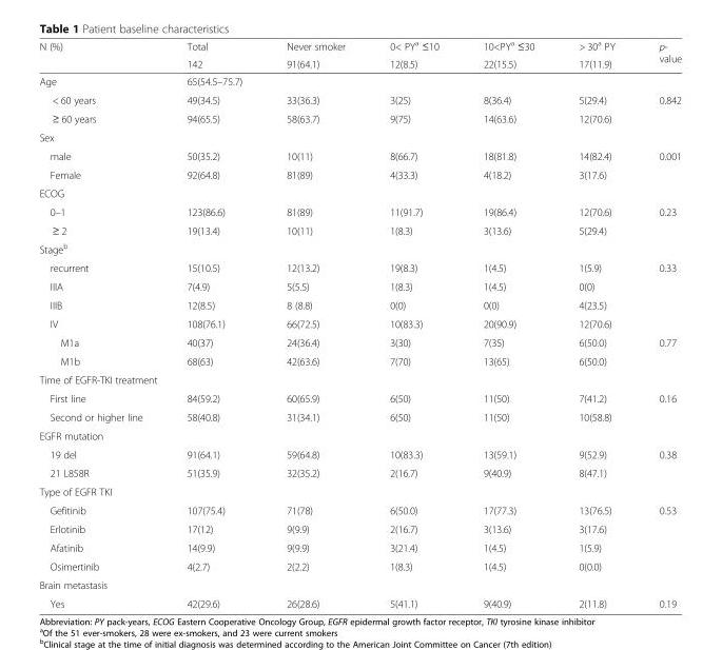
<table><thead><tr><td rowspan="2">N (%)</td><td rowspan="2">Total 142</td><td rowspan="2">Never smoker 91(64.1)</td><td rowspan="2">0&lt; PY<sup>a</sup> ≤10 12(8.5)</td><td rowspan="2">10&lt;PY<sup>a</sup> ≤30 22(15.5)</td><td rowspan="2">&gt; 30<sup>a</sup> PY 17(11.9)</td><td rowspan="2">p- value</td></tr><tr></tr></thead><tbody><tr><td>Age</td><td>65(54.5–75.7)</td><td></td><td></td><td></td><td></td><td></td></tr><tr><td>&lt; 60 years</td><td>49(34.5)</td><td>33(36.3)</td><td>3(25)</td><td>8(36.4)</td><td>5(29.4)</td><td rowspan="2">0.842</td></tr><tr><td>≥ 60 years</td><td>94(65.5)</td><td>58(63.7)</td><td>9(75)</td><td>14(63.6)</td><td>12(70.6)</td></tr><tr><td colspan="7">Sex</td></tr><tr><td>male</td><td>50(35.2)</td><td>10(11)</td><td>8(66.7)</td><td>18(81.8)</td><td>14(82.4)</td><td rowspan="2">0.001</td></tr><tr><td>Female</td><td>92(64.8)</td><td>81(89)</td><td>4(33.3)</td><td>4(18.2)</td><td>3(17.6)</td></tr><tr><td colspan="7">ECOG</td></tr><tr><td>0–1</td><td>123(86.6)</td><td>81(89)</td><td>11(91.7)</td><td>19(86.4)</td><td>12(70.6)</td><td rowspan="2">0.23</td></tr><tr><td>≥ 2</td><td>19(13.4)</td><td>10(11)</td><td>1(8.3)</td><td>3(13.6)</td><td>5(29.4)</td></tr><tr><td colspan="7">Stage<sup>b</sup></td></tr><tr><td>recurrent</td><td>15(10.5)</td><td>12(13.2)</td><td>19(8.3)</td><td>1(4.5)</td><td>1(5.9)</td><td rowspan="4">0.33</td></tr><tr><td>IIIA</td><td>7(4.9)</td><td>5(5.5)</td><td>1(8.3)</td><td>1(4.5)</td><td>0(0)</td></tr><tr><td>IIIB</td><td>12(8.5)</td><td>8 (8.8)</td><td>0(0)</td><td>0(0)</td><td>4(23.5)</td></tr><tr><td>IV</td><td>108(76.1)</td><td>66(72.5)</td><td>10(83.3)</td><td>20(90.9)</td><td>12(70.6)</td></tr><tr><td>M1a</td><td>40(37)</td><td>24(36.4)</td><td>3(30)</td><td>7(35)</td><td>6(50.0)</td><td rowspan="2">0.77</td></tr><tr><td>M1b</td><td>68(63)</td><td>42(63.6)</td><td>7(70)</td><td>13(65)</td><td>6(50.0)</td></tr><tr><td colspan="7">Time of EGFR-TKI treatment</td></tr><tr><td>First line</td><td>84(59.2)</td><td>60(65.9)</td><td>6(50)</td><td>11(50)</td><td>7(41.2)</td><td rowspan="2">0.16</td></tr><tr><td>Second or higher line</td><td>58(40.8)</td><td>31(34.1)</td><td>6(50)</td><td>11(50)</td><td>10(58.8)</td></tr><tr><td colspan="7">EGFR mutation</td></tr><tr><td>19 del</td><td>91(64.1)</td><td>59(64.8)</td><td>10(83.3)</td><td>13(59.1)</td><td>9(52.9)</td><td rowspan="2">0.38</td></tr><tr><td>21 L858R</td><td>51(35.9)</td><td>32(35.2)</td><td>2(16.7)</td><td>9(40.9)</td><td>8(47.1)</td></tr><tr><td colspan="7">Type of EGFR TKI</td></tr><tr><td>Gefitinib</td><td>107(75.4)</td><td>71(78)</td><td>6(50.0)</td><td>17(77.3)</td><td>13(76.5)</td><td rowspan="4">0.53</td></tr><tr><td>Erlotinib</td><td>17(12)</td><td>9(9.9)</td><td>2(16.7)</td><td>3(13.6)</td><td>3(17.6)</td></tr><tr><td>Afatinib</td><td>14(9.9)</td><td>9(9.9)</td><td>3(21.4)</td><td>1(4.5)</td><td>1(5.9)</td></tr><tr><td>Osimertinib</td><td>4(2.7)</td><td>2(2.2)</td><td>1(8.3)</td><td>1(4.5)</td><td>0(0.0)</td></tr><tr><td colspan="7">Brain metastasis</td></tr><tr><td>Yes</td><td>42(29.6)</td><td>26(28.6)</td><td>5(41.1)</td><td>9(40.9)</td><td>2(11.8)</td><td>0.19</td></tr></tbody></table>